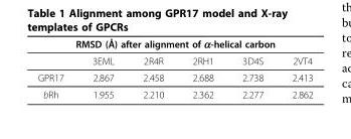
<table><thead><tr><td colspan="6">RMSD (Å) after alignment of α-helical carbon</td></tr><tr><td></td><td>3EML</td><td>2R4R</td><td>2RH1</td><td>3D4S</td><td>2VT4</td></tr></thead><tbody><tr><td>GPR17</td><td>2.867</td><td>2.458</td><td>2.688</td><td>2.738</td><td>2.413</td></tr><tr><td>bRh</td><td>1.955</td><td>2.210</td><td>2.362</td><td>2.277</td><td>2.862</td></tr></tbody></table>